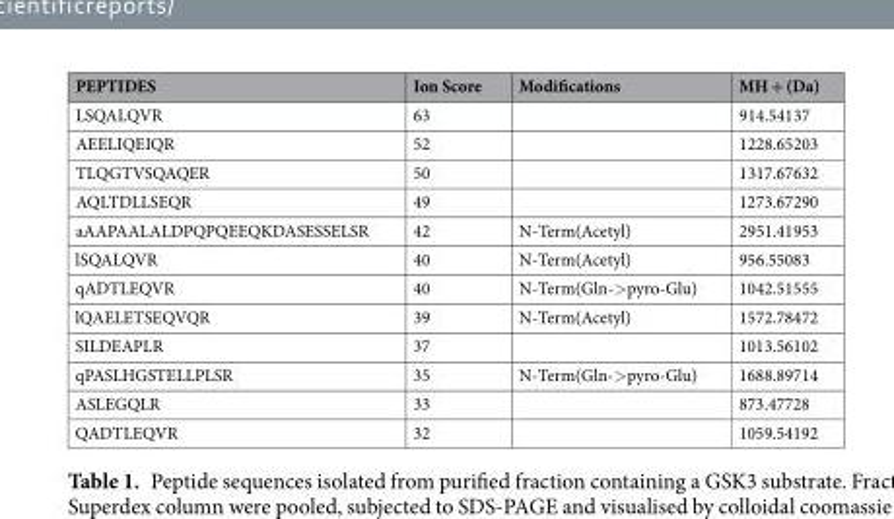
<table><thead><tr><td>PEPTIDES</td><td>Ion Score</td><td>Modifications</td><td>MH + (Da)</td></tr></thead><tbody><tr><td>LSQALQVR</td><td>63</td><td></td><td>914.54137</td></tr><tr><td>AEELIQEIQR</td><td>52</td><td></td><td>1228.65203</td></tr><tr><td>TLQGTVSQAQER</td><td>50</td><td></td><td>1317.67632</td></tr><tr><td>AQLTDLLSEQR</td><td>49</td><td></td><td>1273.67290</td></tr><tr><td>aAAPAALALDPQPQEEQKDASESSELSR</td><td>42</td><td>N-Term(Acetyl)</td><td>2951.41953</td></tr><tr><td>lSQALQVR</td><td>40</td><td>N-Term(Acetyl)</td><td>956.55083</td></tr><tr><td>qADTLEQVR</td><td>40</td><td>N-Term(Gln-&gt;pyro-Glu)</td><td>1042.51555</td></tr><tr><td>lQAELETSEQVQR</td><td>39</td><td>N-Term(Acetyl)</td><td>1572.78472</td></tr><tr><td>SILDEAPLR</td><td>37</td><td></td><td>1013.56102</td></tr><tr><td>qPASLHGSTELLPLSR</td><td>35</td><td>N-Term(Gln-&gt;pyro-Glu)</td><td>1688.89714</td></tr><tr><td>ASLEGQLR</td><td>33</td><td></td><td>873.47728</td></tr><tr><td>QADTLEQVR</td><td>32</td><td></td><td>1059.54192</td></tr></tbody></table>